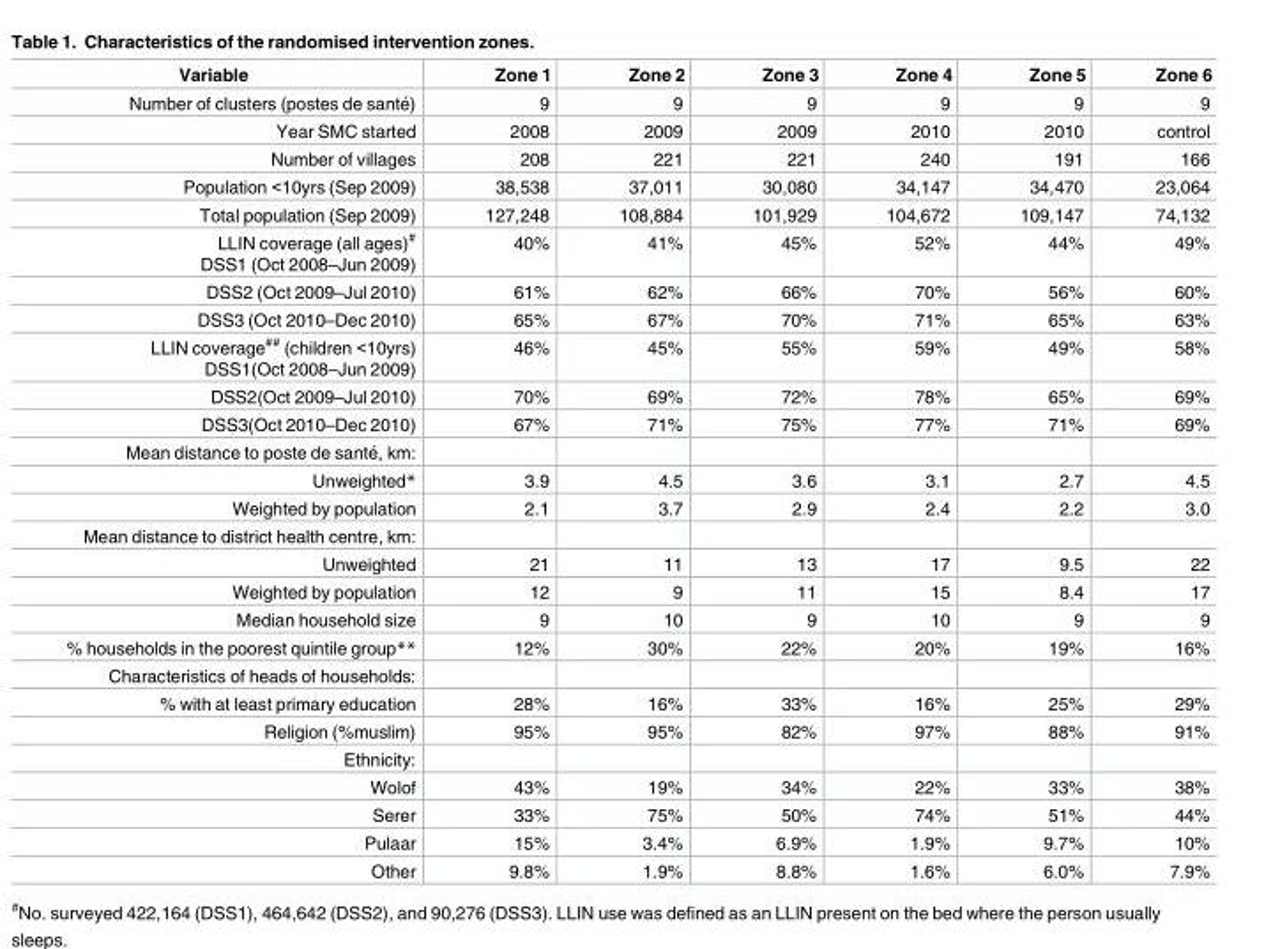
<table><thead><tr><td>Variable</td><td>Zone 1</td><td>Zone 2</td><td>Zone 3</td><td>Zone 4</td><td>Zone 5</td><td>Zone 6</td></tr></thead><tbody><tr><td>Number of clusters (postes de sante´)</td><td>9</td><td>9</td><td>9</td><td>9</td><td>9</td><td>9</td></tr><tr><td>Year SMC started</td><td>2008</td><td>2009</td><td>2009</td><td>2010</td><td>2010</td><td>control</td></tr><tr><td>Number of villages</td><td>208</td><td>221</td><td>221</td><td>240</td><td>191</td><td>166</td></tr><tr><td>Population &lt;10yrs (Sep 2009)</td><td>38,538</td><td>37,011</td><td>30,080</td><td>34,147</td><td>34,470</td><td>23,064</td></tr><tr><td>Total population (Sep 2009)</td><td>127,248</td><td>108,884</td><td>101,929</td><td>104,672</td><td>109,147</td><td>74,132</td></tr><tr><td>LLIN coverage (all ages)<sup>#</sup> DSS1 (Oct 2008–Jun 2009)</td><td>40%</td><td>41%</td><td>45%</td><td>52%</td><td>44%</td><td>49%</td></tr><tr><td>DSS2 (Oct 2009–Jul 2010)</td><td>61%</td><td>62%</td><td>66%</td><td>70%</td><td>56%</td><td>60%</td></tr><tr><td>DSS3 (Oct 2010–Dec 2010)</td><td>65%</td><td>67%</td><td>70%</td><td>71%</td><td>65%</td><td>63%</td></tr><tr><td>LLIN coverage<sup>##</sup> (children &lt;10yrs) DSS1(Oct 2008–Jun 2009)</td><td>46%</td><td>45%</td><td>55%</td><td>59%</td><td>49%</td><td>58%</td></tr><tr><td>DSS2(Oct 2009–Jul 2010)</td><td>70%</td><td>69%</td><td>72%</td><td>78%</td><td>65%</td><td>69%</td></tr><tr><td>DSS3(Oct 2010–Dec 2010)</td><td>67%</td><td>71%</td><td>75%</td><td>77%</td><td>71%</td><td>69%</td></tr><tr><td colspan="7">Mean distance to poste de sante´, km:</td></tr><tr><td>Unweighted*</td><td>3.9</td><td>4.5</td><td>3.6</td><td>3.1</td><td>2.7</td><td>4.5</td></tr><tr><td>Weighted by population</td><td>2.1</td><td>3.7</td><td>2.9</td><td>2.4</td><td>2.2</td><td>3.0</td></tr><tr><td colspan="7">Mean distance to district health centre, km:</td></tr><tr><td>Unweighted</td><td>21</td><td>11</td><td>13</td><td>17</td><td>9.5</td><td>22</td></tr><tr><td>Weighted by population</td><td>12</td><td>9</td><td>11</td><td>15</td><td>8.4</td><td>17</td></tr><tr><td>Median household size</td><td>9</td><td>10</td><td>9</td><td>10</td><td>9</td><td>9</td></tr><tr><td>% households in the poorest quintile group**</td><td>12%</td><td>30%</td><td>22%</td><td>20%</td><td>19%</td><td>16%</td></tr><tr><td colspan="7">Characteristics of heads of households:</td></tr><tr><td>% with at least primary education</td><td>28%</td><td>16%</td><td>33%</td><td>16%</td><td>25%</td><td>29%</td></tr><tr><td>Religion (%muslim)</td><td>95%</td><td>95%</td><td>82%</td><td>97%</td><td>88%</td><td>91%</td></tr><tr><td colspan="7">Ethnicity:</td></tr><tr><td>Wolof</td><td>43%</td><td>19%</td><td>34%</td><td>22%</td><td>33%</td><td>38%</td></tr><tr><td>Serer</td><td>33%</td><td>75%</td><td>50%</td><td>74%</td><td>51%</td><td>44%</td></tr><tr><td>Pulaar</td><td>15%</td><td>3.4%</td><td>6.9%</td><td>1.9%</td><td>9.7%</td><td>10%</td></tr><tr><td>Other</td><td>9.8%</td><td>1.9%</td><td>8.8%</td><td>1.6%</td><td>6.0%</td><td>7.9%</td></tr></tbody></table>